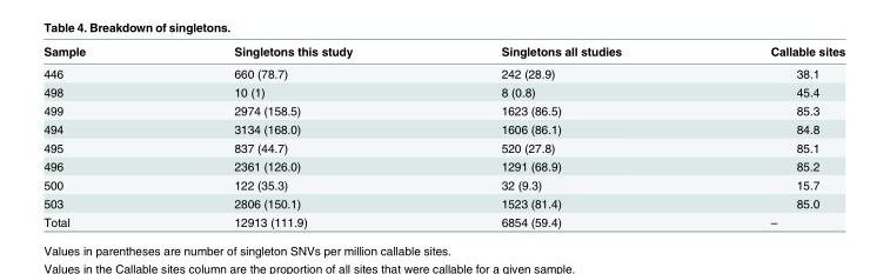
<table><thead><tr><td>Sample</td><td>Singletons this study</td><td>Singletons all studies</td><td>Callable sites</td></tr></thead><tbody><tr><td>446</td><td>660 (78.7)</td><td>242 (28.9)</td><td>38.1</td></tr><tr><td>498</td><td>10 (1)</td><td>8 (0.8)</td><td>45.4</td></tr><tr><td>499</td><td>2974 (158.5)</td><td>1623 (86.5)</td><td>85.3</td></tr><tr><td>494</td><td>3134 (168.0)</td><td>1606 (86.1)</td><td>84.8</td></tr><tr><td>495</td><td>837 (44.7)</td><td>520 (27.8)</td><td>85.1</td></tr><tr><td>496</td><td>2361 (126.0)</td><td>1291 (68.9)</td><td>85.2</td></tr><tr><td>500</td><td>122 (35.3)</td><td>32 (9.3)</td><td>15.7</td></tr><tr><td>503</td><td>2806 (150.1)</td><td>1523 (81.4)</td><td>85.0</td></tr><tr><td>Total</td><td>12913 (111.9)</td><td>6854 (59.4)</td><td>–</td></tr></tbody></table>